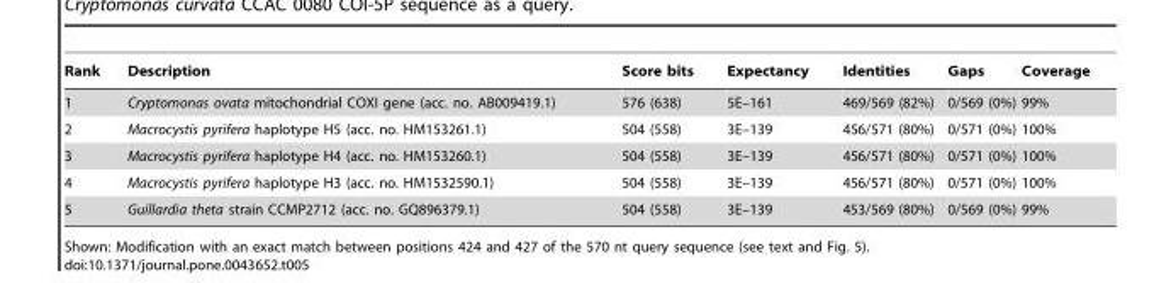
<table><thead><tr><td>Rank</td><td>Description</td><td>Score bits</td><td>Expectancy</td><td>Identities</td><td>Gaps</td><td>Coverage</td></tr></thead><tbody><tr><td>1</td><td>Cryptomonas ovata mitochondrial COXI gene (acc. no. AB009419.1)</td><td>576 (638)</td><td>5E–161</td><td>469/569 (82%)</td><td>0/569 (0%)</td><td>99%</td></tr><tr><td>2</td><td>Macrocystis pyrifera haplotype H5 (acc. no. HM153261.1)</td><td>504 (558)</td><td>3E–139</td><td>456/571 (80%)</td><td>0/571 (0%)</td><td>100%</td></tr><tr><td>3</td><td>Macrocystis pyrifera haplotype H4 (acc. no. HM153260.1)</td><td>504 (558)</td><td>3E–139</td><td>456/571 (80%)</td><td>0/571 (0%)</td><td>100%</td></tr><tr><td>4</td><td>Macrocystis pyrifera haplotype H3 (acc. no. HM1532590.1)</td><td>504 (558)</td><td>3E–139</td><td>456/571 (80%)</td><td>0/571 (0%)</td><td>100%</td></tr><tr><td>5</td><td>Guillardia theta strain CCMP2712 (acc. no. GQ896379.1)</td><td>504 (558)</td><td>3E–139</td><td>453/569 (80%)</td><td>0/569 (0%)</td><td>99%</td></tr></tbody></table>